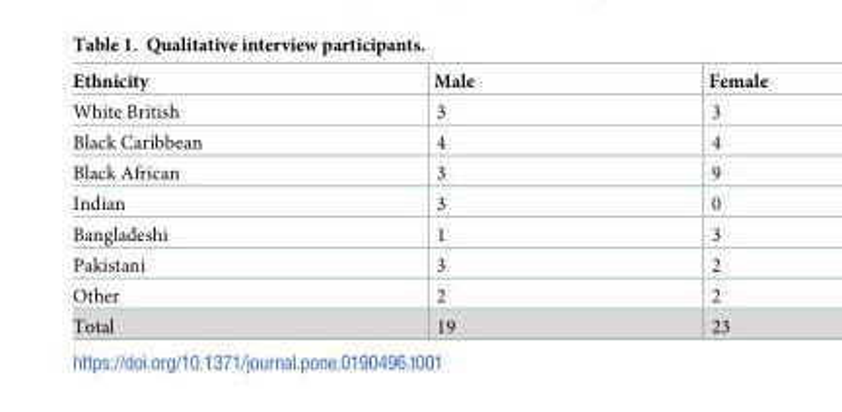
<table><thead><tr><td>Ethnicity</td><td>Male</td><td>Female</td></tr></thead><tbody><tr><td>White British</td><td>3</td><td>3</td></tr><tr><td>Black Caribbean</td><td>4</td><td>4</td></tr><tr><td>Black African</td><td>3</td><td>9</td></tr><tr><td>Indian</td><td>3</td><td>0</td></tr><tr><td>Bangladeshi</td><td>1</td><td>3</td></tr><tr><td>Pakistani</td><td>3</td><td>2</td></tr><tr><td>Other</td><td>2</td><td>2</td></tr><tr><td>Total</td><td>19</td><td>23</td></tr></tbody></table>